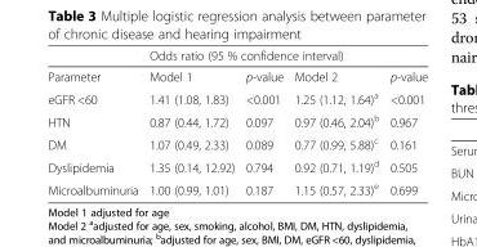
<table><thead><tr><td rowspan="2">Parameter</td><td colspan="3">Odds ratio (95 % confidence interval)</td><td rowspan="2">p-value</td></tr><tr><td>Model 1</td><td>p-value</td><td>Model 2</td></tr></thead><tbody><tr><td>eGFR &lt;60</td><td>1.41 (1.08, 1.83)</td><td>&lt;0.001</td><td>1.25 (1.12, 1.64)<sup>a</sup></td><td>&lt;0.001</td></tr><tr><td>HTN</td><td>0.87 (0.44, 1.72)</td><td>0.097</td><td>0.97 (0.46, 2.04)<sup>b</sup></td><td>0.967</td></tr><tr><td>DM</td><td>1.07 (0.49, 2.33)</td><td>0.089</td><td>0.77 (0.99, 5.88)<sup>c</sup></td><td>0.161</td></tr><tr><td>Dyslipidemia</td><td>1.35 (0.14, 12.92)</td><td>0.794</td><td>0.92 (0.71, 1.19)<sup>d</sup></td><td>0.505</td></tr><tr><td>Microalbuminuria</td><td>1.00 (0.99, 1.01)</td><td>0.187</td><td>1.15 (0.57, 2.33)<sup>e</sup></td><td>0.699</td></tr></tbody></table>